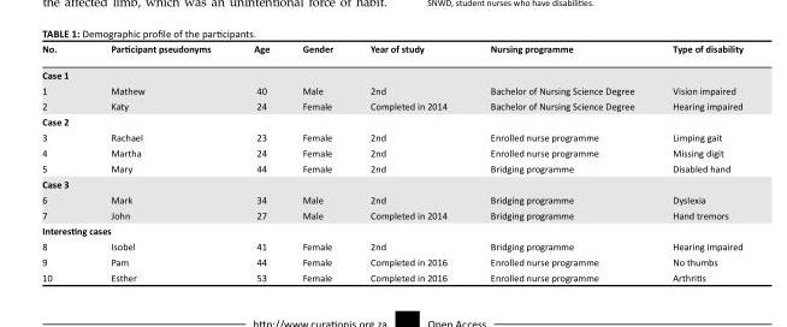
<table><thead><tr><td>No.</td><td>Participant pseudonyms</td><td>Age</td><td>Gender</td><td>Year of study</td><td>Nursing programme</td><td>Type of disability</td></tr></thead><tbody><tr><td colspan="7">Case 1</td></tr><tr><td>1</td><td>Mathew</td><td>40</td><td>Male</td><td>2nd</td><td>Bachelor of Nursing Science Degree</td><td>Vision impaired</td></tr><tr><td>2</td><td>Katy</td><td>24</td><td>Female</td><td>Completed in 2014</td><td>Bachelor of Nursing Science Degree</td><td>Hearing impaired</td></tr><tr><td colspan="7">Case 2</td></tr><tr><td>3</td><td>Rachael</td><td>23</td><td>Female</td><td>2nd</td><td>Enrolled nurse programme</td><td>Limping gait</td></tr><tr><td>4</td><td>Martha</td><td>24</td><td>Female</td><td>2nd</td><td>Enrolled nurse programme</td><td>Missing digit</td></tr><tr><td>5</td><td>Mary</td><td>44</td><td>Female</td><td>2nd</td><td>Bridging programme</td><td>Disabled hand</td></tr><tr><td colspan="7">Case 3</td></tr><tr><td>6</td><td>Mark</td><td>34</td><td>Male</td><td>2nd</td><td>Bridging programme</td><td>Dyslexia</td></tr><tr><td>7</td><td>John</td><td>27</td><td>Male</td><td>Completed in 2014</td><td>Bridging programme</td><td>Hand tremors</td></tr><tr><td colspan="7">Interesting cases</td></tr><tr><td>8</td><td>Isobel</td><td>41</td><td>Female</td><td>2nd</td><td>Bridging programme</td><td>Hearing impaired</td></tr><tr><td>9</td><td>Pam</td><td>44</td><td>Female</td><td>Completed in 2016</td><td>Enrolled nurse programme</td><td>No thumbs</td></tr><tr><td>10</td><td>Esther</td><td>53</td><td>Female</td><td>Completed in 2016</td><td>Enrolled nurse programme</td><td>Arthritis</td></tr></tbody></table>